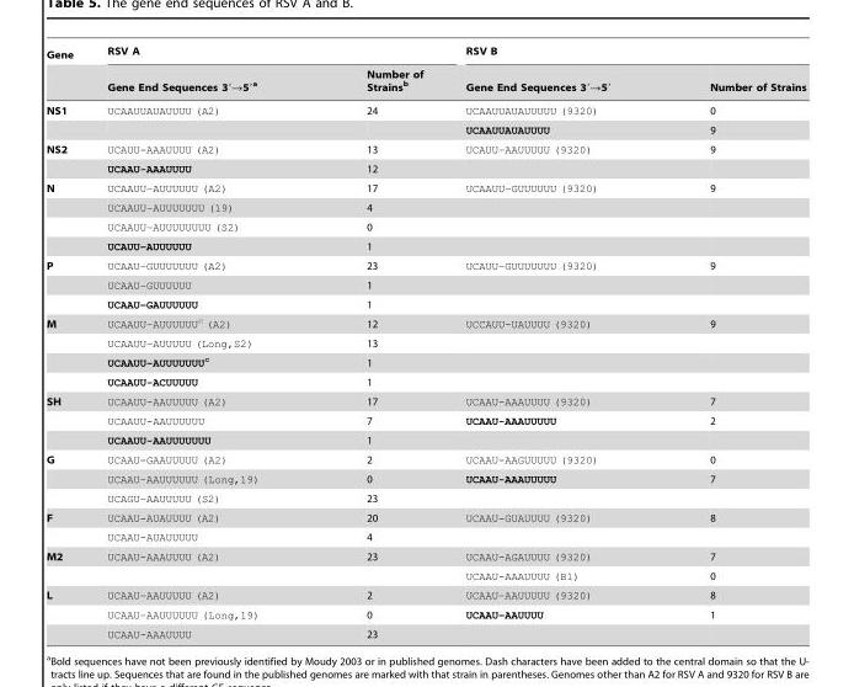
<table><thead><tr><td rowspan="2">Gene</td><td colspan="2">RSV A</td><td colspan="2">RSV B</td></tr><tr><td>Gene End Sequences 3′→5′<sup>a</sup></td><td>Number of Strains<sup>b</sup></td><td>Gene End Sequences 3′→5′</td><td>Number of Strains</td></tr></thead><tbody><tr><td rowspan="2">NS1</td><td>UCAAUUAUAUUUU (A2)</td><td>24</td><td>UCAAUUAUAUUUUU (9320)</td><td>0</td></tr><tr><td></td><td></td><td>UCAAUUAUAUUUU</td><td>9</td></tr><tr><td rowspan="2">NS2</td><td>UCAUU-AAAUUUU (A2)</td><td>13</td><td>UCAUU–AAUUUUU (9320)</td><td>9</td></tr><tr><td>UCAAU-AAAUUUU</td><td>12</td><td></td><td></td></tr><tr><td rowspan="4">N</td><td>UCAAUU–AUUUUUU (A2)</td><td>17</td><td>UCAAUU–GUUUUUU (9320)</td><td>9</td></tr><tr><td>UCAAUU–AUUUUUUU (19)</td><td>4</td><td></td><td></td></tr><tr><td>UCAAUU–AUUUUUUUU (S2)</td><td>0</td><td></td><td></td></tr><tr><td>UCAUU–AUUUUUU</td><td>1</td><td></td><td></td></tr><tr><td rowspan="3">P</td><td>UCAAU–GUUUUUUU (A2)</td><td>23</td><td>UCAUU–GUUUUUUU (9320)</td><td>9</td></tr><tr><td>UCAAU–GUUUUUU</td><td>1</td><td></td><td></td></tr><tr><td>UCAAU–GAUUUUUU</td><td>1</td><td></td><td></td></tr><tr><td rowspan="4">M</td><td>UCAAUU–AUUUUUU<sup>c</sup> (A2)</td><td>12</td><td>UCCAUU-UAUUUU (9320)</td><td>9</td></tr><tr><td>UCAAUU–AUUUUU (Long,S2)</td><td>13</td><td></td><td></td></tr><tr><td>UCAAUU–AUUUUUUUc</td><td>1</td><td></td><td></td></tr><tr><td>UCAAUU-ACUUUUU</td><td>1</td><td></td><td></td></tr><tr><td rowspan="3">SH</td><td>UCAAUU-AAUUUUU (A2)</td><td>17</td><td>UCAAU-AAAUUUU (9320)</td><td>7</td></tr><tr><td>UCAAUU-AAUUUUUU</td><td>7</td><td>UCAAU-AAAUUUUU</td><td>2</td></tr><tr><td>UCAAUU-AAUUUUUUU</td><td>1</td><td></td><td></td></tr><tr><td rowspan="3">G</td><td>UCAAU-GAAUUUUU (A2)</td><td>2</td><td>UCAAU-AAGUUUUU (9320)</td><td>0</td></tr><tr><td>UCAAU–AAUUUUUU (Long,19)</td><td>0</td><td>UCAAU-AAAUUUUU</td><td>7</td></tr><tr><td>UCAGU–AAUUUUU (S2)</td><td>23</td><td></td><td></td></tr><tr><td rowspan="2">F</td><td>UCAAU-AUAUUUU (A2)</td><td>20</td><td>UCAAU-GUAUUUU (9320)</td><td>8</td></tr><tr><td>UCAAU-AUAUUUUU</td><td>4</td><td></td><td></td></tr><tr><td rowspan="2">M2</td><td>UCAAU-AAAUUUU (A2)</td><td>23</td><td>UCAAU-AGAUUUU (9320)</td><td>7</td></tr><tr><td></td><td></td><td>UCAAU-AAAUUUU (B1)</td><td>0</td></tr><tr><td rowspan="3">L</td><td>UCAAU–AAUUUUU (A2)</td><td>2</td><td>UCAAU–AAUUUUU (9320)</td><td>8</td></tr><tr><td>UCAAU–AAUUUUUU (Long,19)</td><td>0</td><td>UCAAU–AAUUUU</td><td>1</td></tr><tr><td>UCAAU-AAAUUUU</td><td>23</td><td></td><td></td></tr></tbody></table>